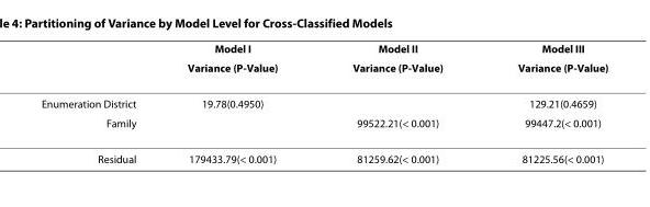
<table><thead><tr><td rowspan="2"></td><td rowspan="2">Model I Variance (P-Value)</td><td rowspan="2">Model II Variance (P-Value)</td><td rowspan="2">Model III Variance (P-Value)</td></tr><tr></tr></thead><tbody><tr><td>Enumeration District</td><td>19.78(0.4950)</td><td></td><td>129.21(0.4659)</td></tr><tr><td>Family</td><td></td><td>99522.21(&lt; 0.001)</td><td>99447.2(&lt; 0.001)</td></tr><tr><td>Residual</td><td>179433.79(&lt; 0.001)</td><td>81259.62(&lt; 0.001)</td><td>81225.56(&lt; 0.001)</td></tr></tbody></table>